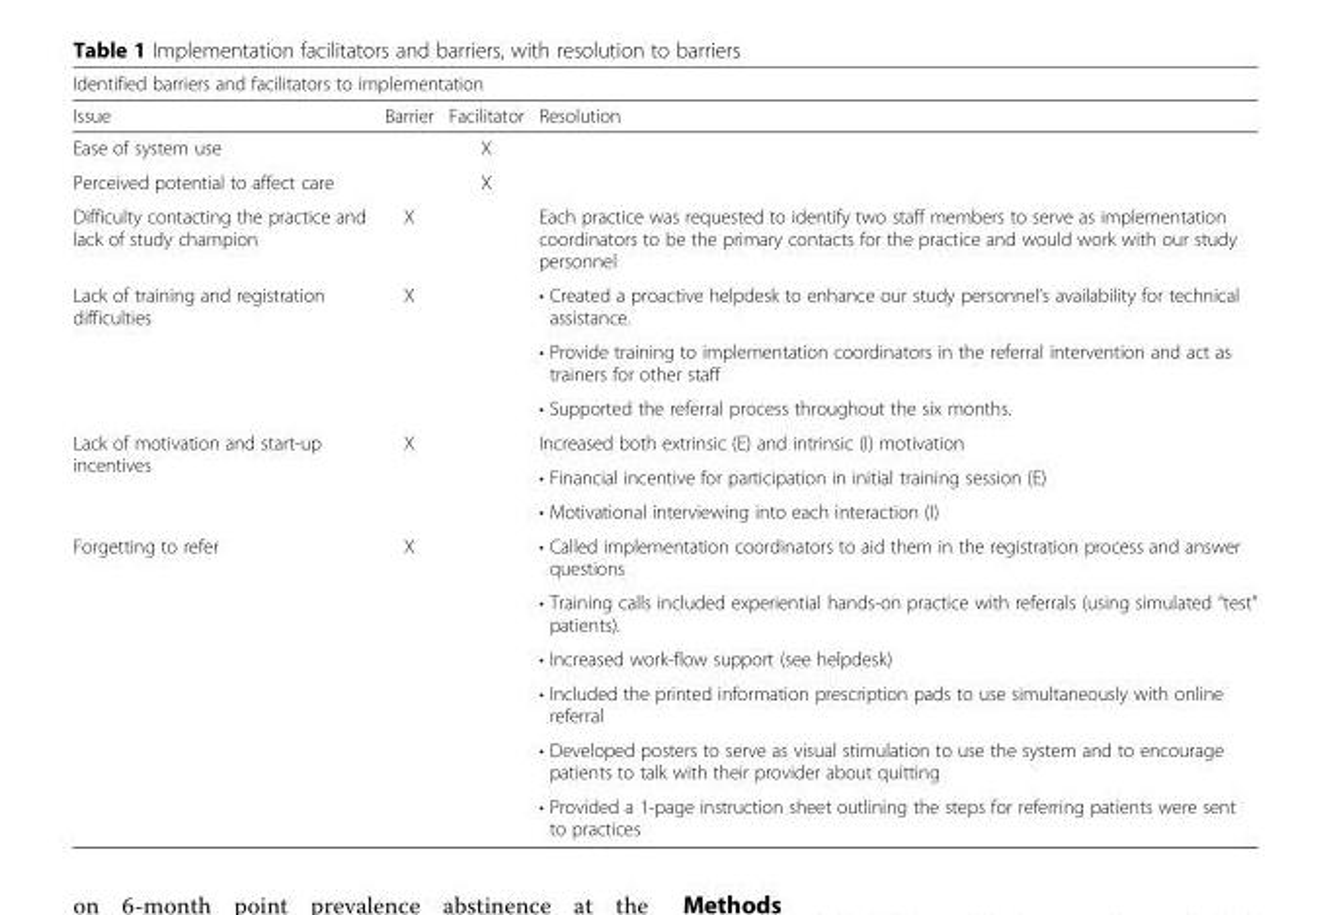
<table><thead><tr><td colspan="4">Identified barriers and facilitators to implementation</td></tr><tr><td>Issue</td><td>Barrier</td><td>Facilitator</td><td>Resolution</td></tr></thead><tbody><tr><td>Ease of system use</td><td></td><td>X</td><td></td></tr><tr><td>Perceived potential to affect care</td><td></td><td>X</td><td></td></tr><tr><td>Difficulty contacting the practice and lack of study champion</td><td>X</td><td></td><td>Each practice was requested to identify two staff members to serve as implementation coordinators to be the primary contacts for the practice and would work with our study personnel</td></tr><tr><td rowspan="3">Lack of training and registration difficulties</td><td rowspan="3">X</td><td rowspan="3"></td><td>• Created a proactive helpdesk to enhance our study personnel’s availability for technical assistance.</td></tr><tr><td>• Provide training to implementation coordinators in the referral intervention and act as trainers for other staff</td></tr><tr><td>• Supported the referral process throughout the six months.</td></tr><tr><td rowspan="3">Lack of motivation and start-up incentives</td><td rowspan="3">X</td><td rowspan="3"></td><td>Increased both extrinsic (E) and intrinsic (I) motivation</td></tr><tr><td>• Financial incentive for participation in initial training session (E)</td></tr><tr><td>• Motivational interviewing into each interaction (I)</td></tr><tr><td rowspan="6">Forgetting to refer</td><td rowspan="6">X</td><td rowspan="6"></td><td>• Called implementation coordinators to aid them in the registration process and answer questions</td></tr><tr><td>• Training calls included experiential hands-on practice with referrals (using simulated “test” patients).</td></tr><tr><td>• Increased work-flow support (see helpdesk)</td></tr><tr><td>• Included the printed information prescription pads to use simultaneously with online referral</td></tr><tr><td>• Developed posters to serve as visual stimulation to use the system and to encourage patients to talk with their provider about quitting</td></tr><tr><td>• Provided a 1-page instruction sheet outlining the steps for referring patients were sent to practices</td></tr></tbody></table>